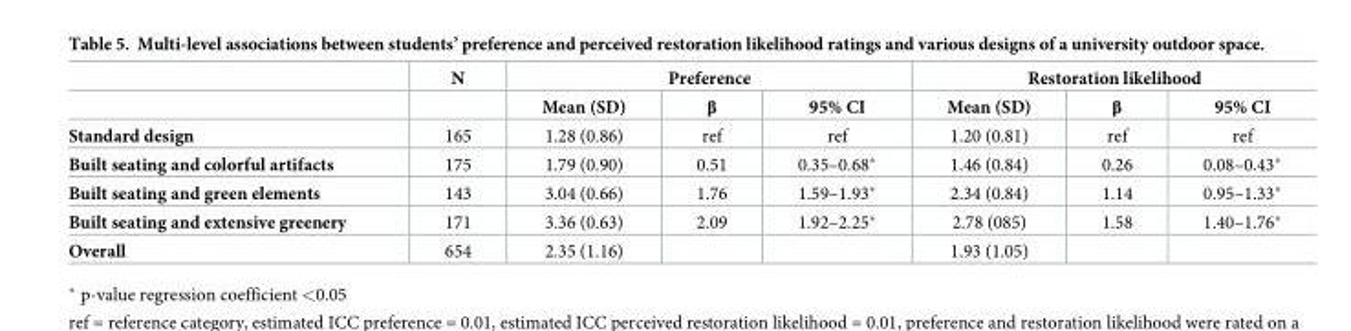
<table><thead><tr><td rowspan="2"></td><td rowspan="2">N</td><td colspan="3">Preference</td><td colspan="3">Restoration likelihood</td></tr><tr><td>Mean (SD)</td><td>β</td><td>95% CI</td><td>Mean (SD)</td><td>β</td><td>95% CI</td></tr></thead><tbody><tr><td>Standard design</td><td>165</td><td>1.28 (0.86)</td><td>ref</td><td>ref</td><td>1.20 (0.81)</td><td>ref</td><td>ref</td></tr><tr><td>Built seating and colorful artifacts</td><td>175</td><td>1.79 (0.90)</td><td>0.51</td><td>0.35–0.68*</td><td>1.46 (0.84)</td><td>0.26</td><td>0.08–0.43*</td></tr><tr><td>Built seating and green elements</td><td>143</td><td>3.04 (0.66)</td><td>1.76</td><td>1.59–1.93*</td><td>2.34 (0.84)</td><td>1.14</td><td>0.95–1.33*</td></tr><tr><td>Built seating and extensive greenery</td><td>171</td><td>3.36 (0.63)</td><td>2.09</td><td>1.92–2.25*</td><td>2.78 (085)</td><td>1.58</td><td>1.40–1.76*</td></tr><tr><td>Overall</td><td>654</td><td>2.35 (1.16)</td><td></td><td></td><td>1.93 (1.05)</td><td></td><td></td></tr></tbody></table>